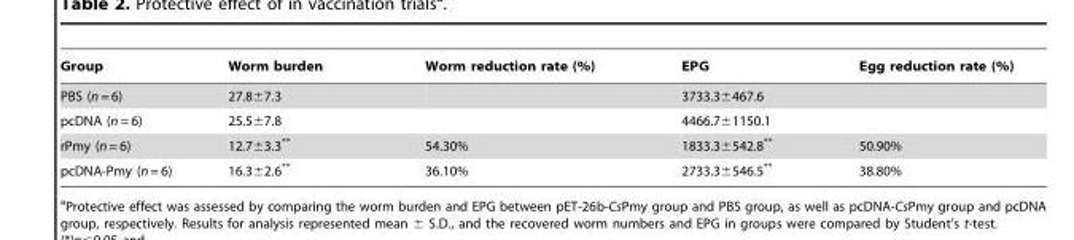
<table><thead><tr><td>Group</td><td>Worm burden</td><td>Worm reduction rate (%)</td><td>EPG</td><td>Egg reduction rate (%)</td></tr></thead><tbody><tr><td>PBS (n = 6)</td><td>27.8±7.3</td><td></td><td>3733.3±467.6</td><td></td></tr><tr><td>pcDNA (n = 6)</td><td>25.5±7.8</td><td></td><td>4466.7±1150.1</td><td></td></tr><tr><td>rPmy (n = 6)</td><td>12.7±3.3**</td><td>54.30%</td><td>1833.3±542.8**</td><td>50.90%</td></tr><tr><td>pcDNA-Pmy (n = 6)</td><td>16.3±2.6**</td><td>36.10%</td><td>2733.3±546.5**</td><td>38.80%</td></tr></tbody></table>